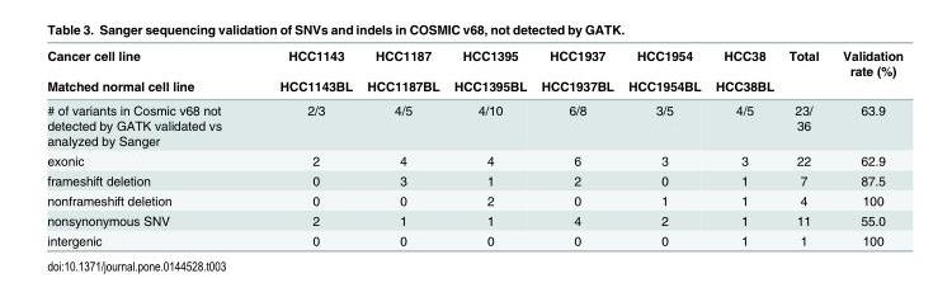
<table><thead><tr><td rowspan="2">Cancer cell line Matched normal cell line</td><td rowspan="2">HCC1143 HCC1143BL</td><td rowspan="2">HCC1187 HCC1187BL</td><td rowspan="2">HCC1395 HCC1395BL</td><td rowspan="2">HCC1937 HCC1937BL</td><td rowspan="2">HCC1954 HCC1954BL</td><td rowspan="2">HCC38 HCC38BL</td><td rowspan="2">Total</td><td rowspan="2">Validation rate (%)</td></tr><tr></tr></thead><tbody><tr><td># of variants in Cosmic v68 not detected by GATK validated vs analyzed by Sanger</td><td>2/3</td><td>4/5</td><td>4/10</td><td>6/8</td><td>3/5</td><td>4/5</td><td>23/ 36</td><td>63.9</td></tr><tr><td>exonic</td><td>2</td><td>4</td><td>4</td><td>6</td><td>3</td><td>3</td><td>22</td><td>62.9</td></tr><tr><td>frameshift deletion</td><td>0</td><td>3</td><td>1</td><td>2</td><td>0</td><td>1</td><td>7</td><td>87.5</td></tr><tr><td>nonframeshift deletion</td><td>0</td><td>0</td><td>2</td><td>0</td><td>1</td><td>1</td><td>4</td><td>100</td></tr><tr><td>nonsynonymous SNV</td><td>2</td><td>1</td><td>1</td><td>4</td><td>2</td><td>1</td><td>11</td><td>55.0</td></tr><tr><td>intergenic</td><td>0</td><td>0</td><td>0</td><td>0</td><td>0</td><td>1</td><td>1</td><td>100</td></tr></tbody></table>